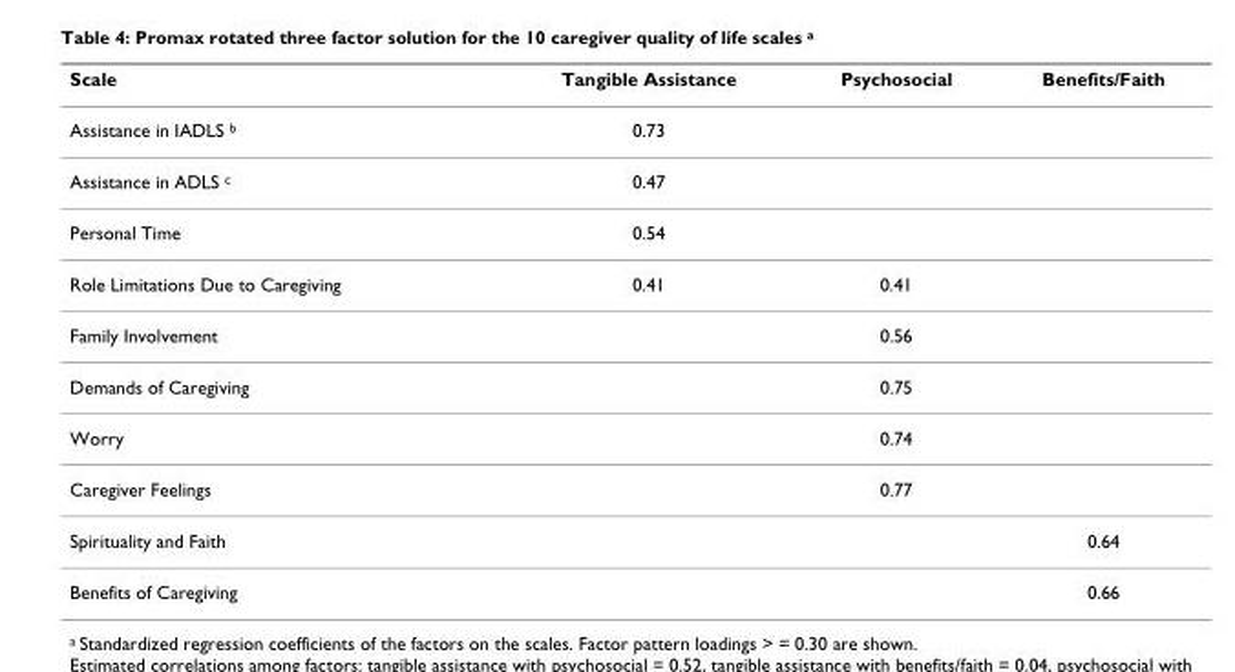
<table><thead><tr><td>Scale</td><td>Tangible Assistance</td><td>Psychosocial</td><td>Benefits/Faith</td></tr></thead><tbody><tr><td>Assistance in IADLS <sup>b</sup></td><td>0.73</td><td></td><td></td></tr><tr><td>Assistance in ADLS <sup>c</sup></td><td>0.47</td><td></td><td></td></tr><tr><td>Personal Time</td><td>0.54</td><td></td><td></td></tr><tr><td>Role Limitations Due to Caregiving</td><td>0.41</td><td>0.41</td><td></td></tr><tr><td>Family Involvement</td><td></td><td>0.56</td><td></td></tr><tr><td>Demands of Caregiving</td><td></td><td>0.75</td><td></td></tr><tr><td>Worry</td><td></td><td>0.74</td><td></td></tr><tr><td>Caregiver Feelings</td><td></td><td>0.77</td><td></td></tr><tr><td>Spirituality and Faith</td><td></td><td></td><td>0.64</td></tr><tr><td>Benefits of Caregiving</td><td></td><td></td><td>0.66</td></tr></tbody></table>